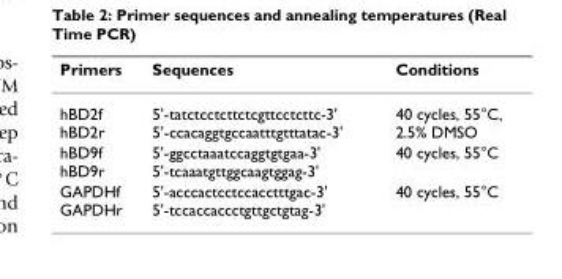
<table><thead><tr><td>Primers</td><td>Sequences</td><td>Conditions</td></tr></thead><tbody><tr><td>hBD2f hBD2r</td><td>5&#x27;-tatctcctcttctcgttcctcttc-3&#x27; 5&#x27;-ccacaggtgccaatttgtttatac-3&#x27;</td><td>40 cycles, 55°C, 2.5% DMSO</td></tr><tr><td>hBD9f hBD9r</td><td>5&#x27;-ggcctaaatccaggtgtgaa-3&#x27; 5&#x27;-tcaaatgttggcaagtggag-3&#x27;</td><td>40 cycles, 55°C</td></tr><tr><td>GAPDHf GAPDHr</td><td>5&#x27;-acccactcctccacctttgac-3&#x27; 5&#x27;-tccaccaccctgttgctgtag-3&#x27;</td><td>40 cycles, 55°C</td></tr></tbody></table>